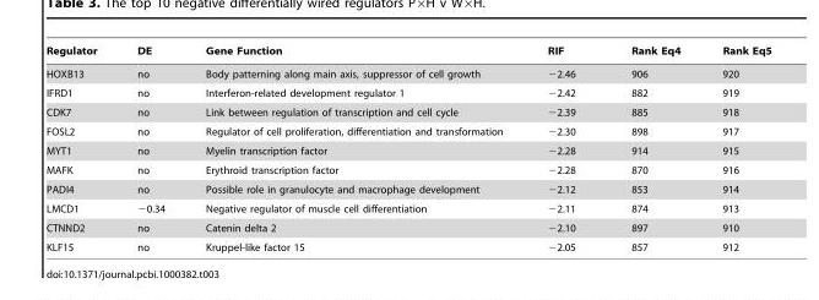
<table><thead><tr><td>Regulator</td><td>DE</td><td>Gene Function</td><td>RIF</td><td>Rank Eq4</td><td>Rank Eq5</td></tr></thead><tbody><tr><td>HOXB13</td><td>no</td><td>Body patterning along main axis, suppressor of cell growth</td><td>−2.46</td><td>906</td><td>920</td></tr><tr><td>IFRD1</td><td>no</td><td>Interferon-related development regulator 1</td><td>−2.42</td><td>882</td><td>919</td></tr><tr><td>CDK7</td><td>no</td><td>Link between regulation of transcription and cell cycle</td><td>−2.39</td><td>885</td><td>918</td></tr><tr><td>FOSL2</td><td>no</td><td>Regulator of cell proliferation, differentiation and transformation</td><td>−2.30</td><td>898</td><td>917</td></tr><tr><td>MYT1</td><td>no</td><td>Myelin transcription factor</td><td>−2.28</td><td>914</td><td>915</td></tr><tr><td>MAFK</td><td>no</td><td>Erythroid transcription factor</td><td>−2.28</td><td>870</td><td>916</td></tr><tr><td>PADI4</td><td>no</td><td>Possible role in granulocyte and macrophage development</td><td>−2.12</td><td>853</td><td>914</td></tr><tr><td>LMCD1</td><td>−0.34</td><td>Negative regulator of muscle cell differentiation</td><td>−2.11</td><td>874</td><td>913</td></tr><tr><td>CTNND2</td><td>no</td><td>Catenin delta 2</td><td>−2.10</td><td>897</td><td>910</td></tr><tr><td>KLF15</td><td>no</td><td>Kruppel-like factor 15</td><td>−2.05</td><td>857</td><td>912</td></tr></tbody></table>